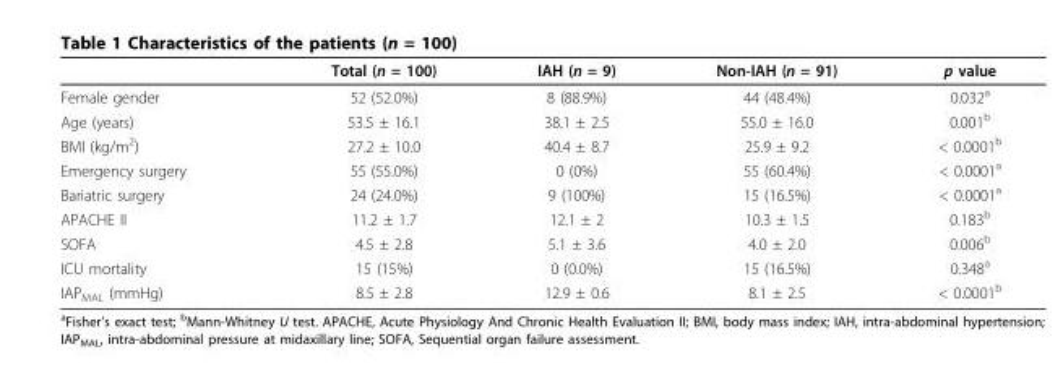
<table><thead><tr><td></td><td>Total (n = 100)</td><td>IAH (n = 9)</td><td>Non-IAH (n = 91)</td><td>p value</td></tr></thead><tbody><tr><td>Female gender</td><td>52 (52.0%)</td><td>8 (88.9%)</td><td>44 (48.4%)</td><td>0.032<sup>a</sup></td></tr><tr><td>Age (years)</td><td>53.5 ± 16.1</td><td>38.1 ± 2.5</td><td>55.0 ± 16.0</td><td>0.001<sup>b</sup></td></tr><tr><td>BMI (kg/m<sup>2</sup>)</td><td>27.2 ± 10.0</td><td>40.4 ± 8.7</td><td>25.9 ± 9.2</td><td>&lt; 0.0001<sup>b</sup></td></tr><tr><td>Emergency surgery</td><td>55 (55.0%)</td><td>0 (0%)</td><td>55 (60.4%)</td><td>&lt; 0.0001<sup>a</sup></td></tr><tr><td>Bariatric surgery</td><td>24 (24.0%)</td><td>9 (100%)</td><td>15 (16.5%)</td><td>&lt; 0.0001<sup>a</sup></td></tr><tr><td>APACHE II</td><td>11.2 ± 1.7</td><td>12.1 ± 2</td><td>10.3 ± 1.5</td><td>0.183<sup>b</sup></td></tr><tr><td>SOFA</td><td>4.5 ± 2.8</td><td>5.1 ± 3.6</td><td>4.0 ± 2.0</td><td>0.006<sup>b</sup></td></tr><tr><td>ICU mortality</td><td>15 (15%)</td><td>0 (0.0%)</td><td>15 (16.5%)</td><td>0.348<sup>a</sup></td></tr><tr><td>IAP<sub>MAL</sub> (mmHg)</td><td>8.5 ± 2.8</td><td>12.9 ± 0.6</td><td>8.1 ± 2.5</td><td>&lt; 0.0001<sup>b</sup></td></tr></tbody></table>